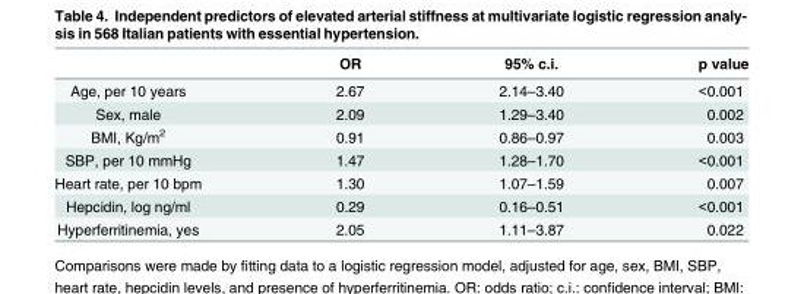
<table><thead><tr><td></td><td>OR</td><td>95% c.i.</td><td>p value</td></tr></thead><tbody><tr><td>Age, per 10 years</td><td>2.67</td><td>2.14–3.40</td><td>&lt;0.001</td></tr><tr><td>Sex, male</td><td>2.09</td><td>1.29–3.40</td><td>0.002</td></tr><tr><td>BMI, Kg/m<sup>2</sup></td><td>0.91</td><td>0.86–0.97</td><td>0.003</td></tr><tr><td>SBP, per 10 mmHg</td><td>1.47</td><td>1.28–1.70</td><td>&lt;0.001</td></tr><tr><td>Heart rate, per 10 bpm</td><td>1.30</td><td>1.07–1.59</td><td>0.007</td></tr><tr><td>Hepcidin, log ng/ml</td><td>0.29</td><td>0.16–0.51</td><td>&lt;0.001</td></tr><tr><td>Hyperferritinemia, yes</td><td>2.05</td><td>1.11–3.87</td><td>0.022</td></tr></tbody></table>